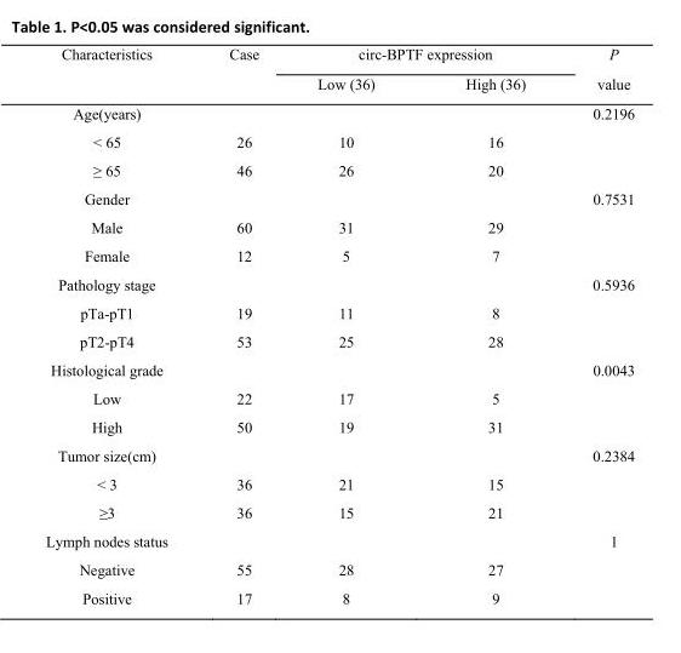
<table><tbody><tr><td rowspan="2">Characteristics</td><td>Case</td><td colspan="2">circ-BPTF expression</td><td>P</td></tr><tr><td></td><td>Low (36)</td><td>High (36)</td><td>value</td></tr><tr><td>Age(years)</td><td></td><td></td><td></td><td>0.2196</td></tr><tr><td>&lt; 65</td><td>26</td><td>10</td><td>16</td><td></td></tr><tr><td>≥ 65</td><td>46</td><td>26</td><td>20</td><td></td></tr><tr><td>Gender</td><td></td><td></td><td></td><td>0.7531</td></tr><tr><td>Male</td><td>60</td><td>31</td><td>29</td><td></td></tr><tr><td>Female</td><td>12</td><td>5</td><td>7</td><td></td></tr><tr><td>Pathology stage</td><td></td><td></td><td></td><td>0.5936</td></tr><tr><td>pTa-pT1</td><td>19</td><td>11</td><td>8</td><td></td></tr><tr><td>pT2-pT4</td><td>53</td><td>25</td><td>28</td><td></td></tr><tr><td>Histological grade</td><td></td><td></td><td></td><td>0.0043</td></tr><tr><td>Low</td><td>22</td><td>17</td><td>5</td><td></td></tr><tr><td>High</td><td>50</td><td>19</td><td>31</td><td></td></tr><tr><td>Tumor size(cm)</td><td></td><td></td><td></td><td>0.2384</td></tr><tr><td>&lt; 3</td><td>36</td><td>21</td><td>15</td><td></td></tr><tr><td>≥3</td><td>36</td><td>15</td><td>21</td><td></td></tr><tr><td>Lymph nodes status</td><td></td><td></td><td></td><td>1</td></tr><tr><td>Negative</td><td>55</td><td>28</td><td>27</td><td></td></tr><tr><td>Positive</td><td>17</td><td>8</td><td>9</td><td></td></tr></tbody></table>